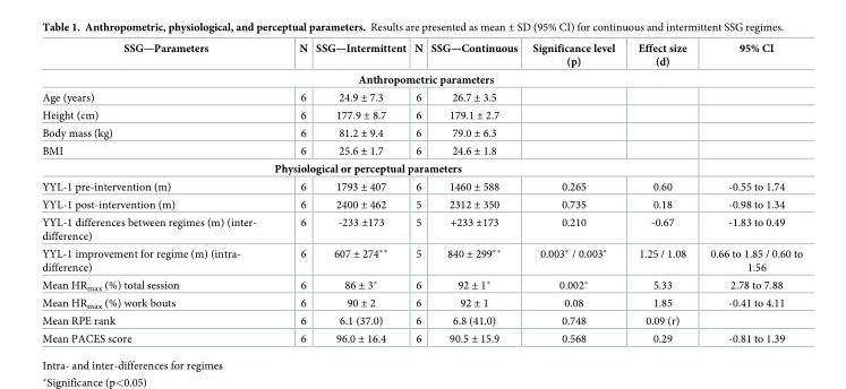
<table><thead><tr><td>SSG—Parameters</td><td>N</td><td>SSG—Intermittent</td><td>N</td><td>SSG—Continuous</td><td>Significance level (p)</td><td>Effect size (d)</td><td>95% CI</td></tr></thead><tbody><tr><td colspan="8">Anthropometric parameters</td></tr><tr><td>Age (years)</td><td>6</td><td>24.9 ± 7.3</td><td>6</td><td>26.7 ± 3.5</td><td></td><td></td><td></td></tr><tr><td>Height (cm)</td><td>6</td><td>177.9 ± 8.7</td><td>6</td><td>179.1 ± 2.7</td><td></td><td></td><td></td></tr><tr><td>Body mass (kg)</td><td>6</td><td>81.2 ± 9.4</td><td>6</td><td>79.0 ± 6.3</td><td></td><td></td><td></td></tr><tr><td>BMI</td><td>6</td><td>25.6 ± 1.7</td><td>6</td><td>24.6 ± 1.8</td><td></td><td></td><td></td></tr><tr><td colspan="8">Physiological or perceptual parameters</td></tr><tr><td>YYL-1 pre-intervention (m)</td><td>6</td><td>1793 ± 407</td><td>6</td><td>1460 ± 588</td><td>0.265</td><td>0.60</td><td>-0.55 to 1.74</td></tr><tr><td>YYL-1 post-intervention (m)</td><td>6</td><td>2400 ± 462</td><td>5</td><td>2312 ± 350</td><td>0.735</td><td>0.18</td><td>-0.98 to 1.34</td></tr><tr><td>YYL-1 differences between regimes (m) (inter- difference)</td><td>6</td><td>-233 ±173</td><td>5</td><td>+233 ±173</td><td>0.210</td><td>-0.67</td><td>-1.83 to 0.49</td></tr><tr><td>YYL-1 improvement for regime (m) (intra- difference)</td><td>6</td><td>607 ± 274**</td><td>5</td><td>840 ± 299**</td><td>0.003* / 0.003*</td><td>1.25 / 1.08</td><td>0.66 to 1.85 / 0.60 to 1.56</td></tr><tr><td>Mean HR<sub>max</sub> (%) total session</td><td>6</td><td>86 ± 3*</td><td>6</td><td>92 ± 1*</td><td>0.002*</td><td>5.33</td><td>2.78 to 7.88</td></tr><tr><td>Mean HR<sub>max</sub> (%) work bouts</td><td>6</td><td>90 ± 2</td><td>6</td><td>92 ± 1</td><td>0.08</td><td>1.85</td><td>-0.41 to 4.11</td></tr><tr><td>Mean RPE rank</td><td>6</td><td>6.1 (37.0)</td><td>6</td><td>6.8 (41.0)</td><td>0.748</td><td>0.09 (r)</td><td></td></tr><tr><td>Mean PACES score</td><td>6</td><td>96.0 ± 16.4</td><td>6</td><td>90.5 ± 15.9</td><td>0.568</td><td>0.29</td><td>-0.81 to 1.39</td></tr></tbody></table>